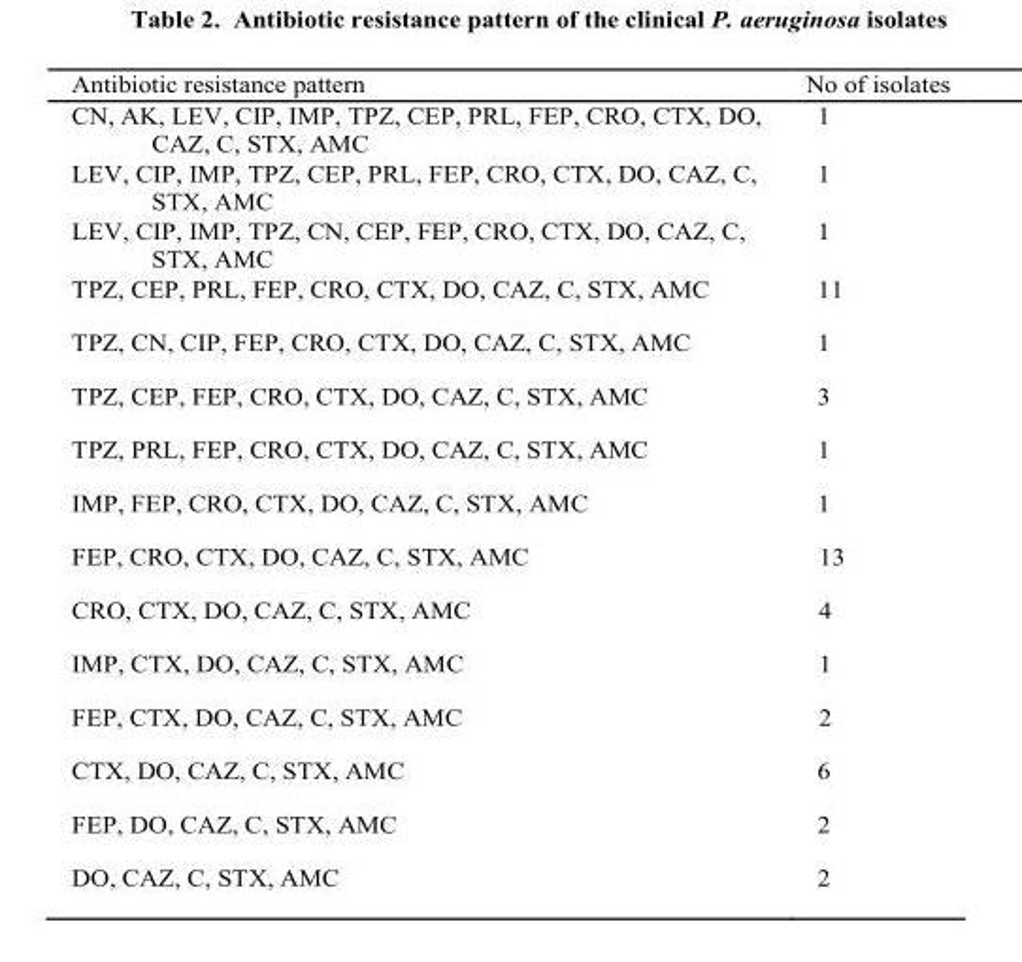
<table><thead><tr><td>Antibiotic resistance pattern</td><td>No of isolates</td></tr></thead><tbody><tr><td>CN, AK, LEV, CIP, IMP, TPZ, CEP, PRL, FEP, CRO, CTX, DO, CAZ, C, STX, AMC</td><td>1</td></tr><tr><td>LEV, CIP, IMP, TPZ, CEP, PRL, FEP, CRO, CTX, DO, CAZ, C, STX, AMC</td><td>1</td></tr><tr><td>LEV, CIP, IMP, TPZ, CN, CEP, FEP, CRO, CTX, DO, CAZ, C, STX, AMC</td><td>1</td></tr><tr><td>TPZ, CEP, PRL, FEP, CRO, CTX, DO, CAZ, C, STX, AMC</td><td>11</td></tr><tr><td>TPZ, CN, CIP, FEP, CRO, CTX, DO, CAZ, C, STX, AMC</td><td>1</td></tr><tr><td>TPZ, CEP, FEP, CRO, CTX, DO, CAZ, C, STX, AMC</td><td>3</td></tr><tr><td>TPZ, PRL, FEP, CRO, CTX, DO, CAZ, C, STX, AMC</td><td>1</td></tr><tr><td>IMP, FEP, CRO, CTX, DO, CAZ, C, STX, AMC</td><td>1</td></tr><tr><td>FEP, CRO, CTX, DO, CAZ, C, STX, AMC</td><td>13</td></tr><tr><td>CRO, CTX, DO, CAZ, C, STX, AMC</td><td>4</td></tr><tr><td>IMP, CTX, DO, CAZ, C, STX, AMC</td><td>1</td></tr><tr><td>FEP, CTX, DO, CAZ, C, STX, AMC</td><td>2</td></tr><tr><td>CTX, DO, CAZ, C, STX, AMC</td><td>6</td></tr><tr><td>FEP, DO, CAZ, C, STX, AMC</td><td>2</td></tr><tr><td>DO, CAZ, C, STX, AMC</td><td>2</td></tr></tbody></table>